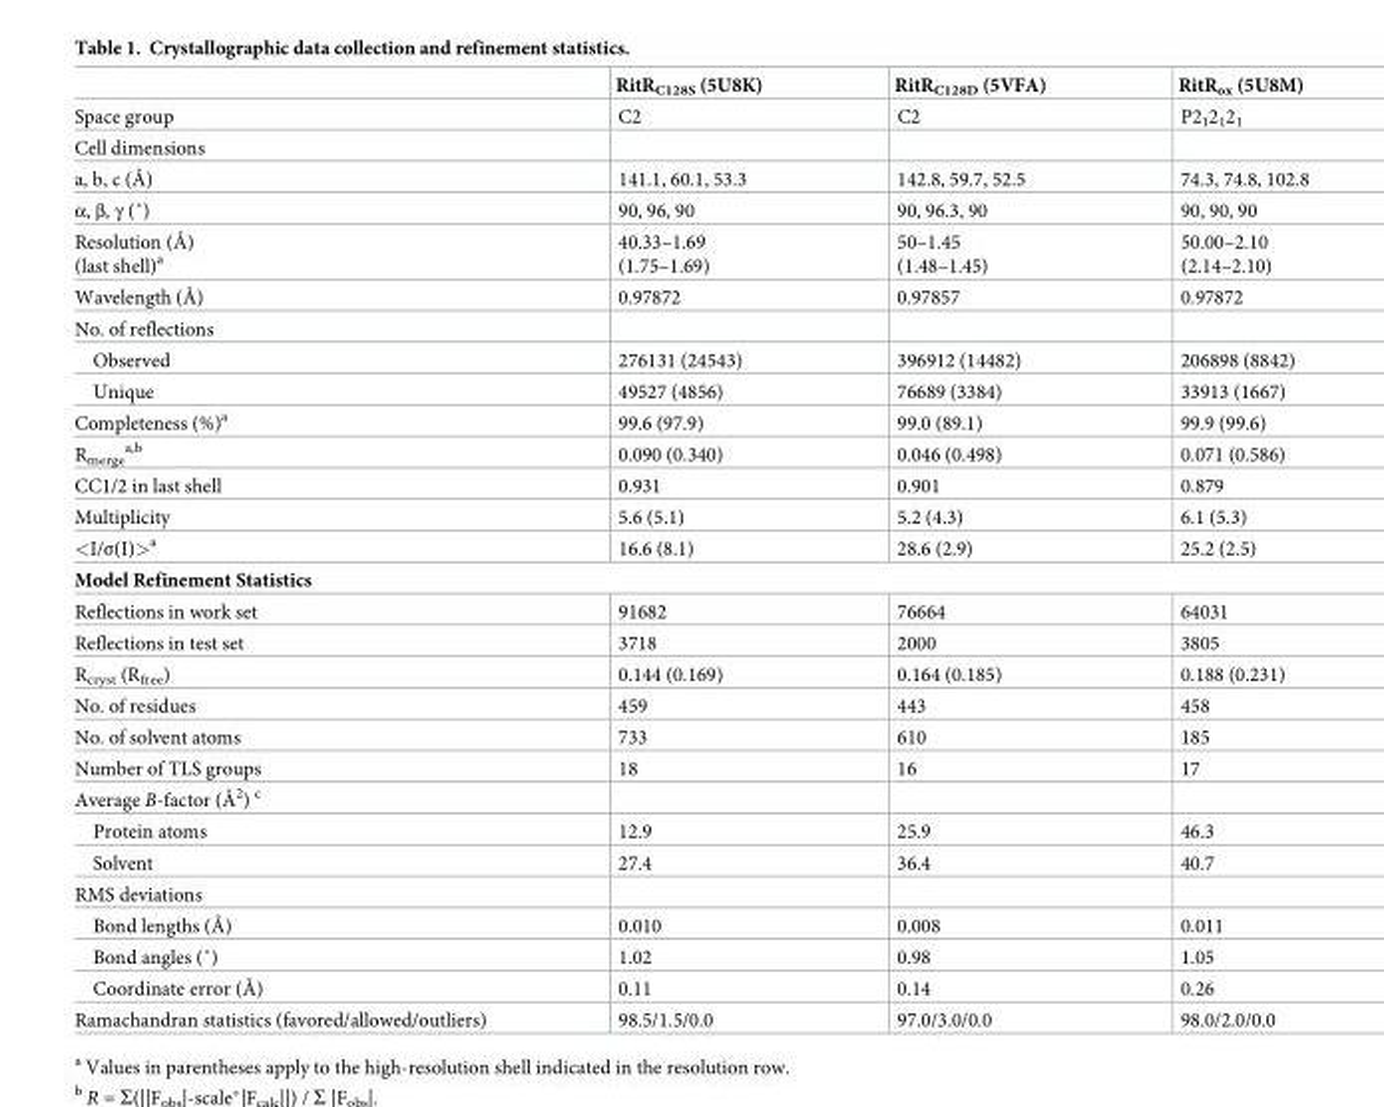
<table><thead><tr><td></td><td>RitR<sub>C128S</sub> (5U8K)</td><td>RitR<sub>C128D</sub> (5VFA)</td><td>RitR<sub>ox</sub> (5U8M)</td></tr></thead><tbody><tr><td>Space group</td><td>C2</td><td>C2</td><td>P2<sub>1</sub>2<sub>1</sub>2<sub>1</sub></td></tr><tr><td colspan="4">Cell dimensions</td></tr><tr><td>a, b, c (Å)</td><td>141.1, 60.1, 53.3</td><td>142.8, 59.7, 52.5</td><td>74.3, 74.8, 102.8</td></tr><tr><td>α, β, γ (˚)</td><td>90, 96, 90</td><td>90, 96.3, 90</td><td>90, 90, 90</td></tr><tr><td>Resolution (Å) (last shell)<sup>a</sup></td><td>40.33–1.69 (1.75–1.69)</td><td>50–1.45 (1.48–1.45)</td><td>50.00–2.10 (2.14–2.10)</td></tr><tr><td>Wavelength (Å)</td><td>0.97872</td><td>0.97857</td><td>0.97872</td></tr><tr><td colspan="4">No. of reflections</td></tr><tr><td>Observed</td><td>276131 (24543)</td><td>396912 (14482)</td><td>206898 (8842)</td></tr><tr><td>Unique</td><td>49527 (4856)</td><td>76689 (3384)</td><td>33913 (1667)</td></tr><tr><td>Completeness (%)<sup>a</sup></td><td>99.6 (97.9)</td><td>99.0 (89.1)</td><td>99.9 (99.6)</td></tr><tr><td>R<sub>merge</sub> <sup>a,b</sup></td><td>0.090 (0.340)</td><td>0.046 (0.498)</td><td>0.071 (0.586)</td></tr><tr><td>CC1/2 in last shell</td><td>0.931</td><td>0.901</td><td>0.879</td></tr><tr><td>Multiplicity</td><td>5.6 (5.1)</td><td>5.2 (4.3)</td><td>6.1 (5.3)</td></tr><tr><td>&lt;I/σ(I)&gt;<sup>a</sup></td><td>16.6 (8.1)</td><td>28.6 (2.9)</td><td>25.2 (2.5)</td></tr><tr><td colspan="4">Model Refinement Statistics</td></tr><tr><td>Reflections in work set</td><td>91682</td><td>76664</td><td>64031</td></tr><tr><td>Reflections in test set</td><td>3718</td><td>2000</td><td>3805</td></tr><tr><td>R<sub>cryst</sub> (R<sub>free</sub>)</td><td>0.144 (0.169)</td><td>0.164 (0.185)</td><td>0.188 (0.231)</td></tr><tr><td>No. of residues</td><td>459</td><td>443</td><td>458</td></tr><tr><td>No. of solvent atoms</td><td>733</td><td>610</td><td>185</td></tr><tr><td>Number of TLS groups</td><td>18</td><td>16</td><td>17</td></tr><tr><td colspan="4">Average B-factor (Å<sup>2</sup>) <sup>c</sup></td></tr><tr><td>Protein atoms</td><td>12.9</td><td>25.9</td><td>46.3</td></tr><tr><td>Solvent</td><td>27.4</td><td>36.4</td><td>40.7</td></tr><tr><td colspan="4">RMS deviations</td></tr><tr><td>Bond lengths (Å)</td><td>0.010</td><td>0.008</td><td>0.011</td></tr><tr><td>Bond angles (˚)</td><td>1.02</td><td>0.98</td><td>1.05</td></tr><tr><td>Coordinate error (Å)</td><td>0.11</td><td>0.14</td><td>0.26</td></tr><tr><td>Ramachandran statistics (favored/allowed/outliers)</td><td>98.5/1.5/0.0</td><td>97.0/3.0/0.0</td><td>98.0/2.0/0.0</td></tr></tbody></table>